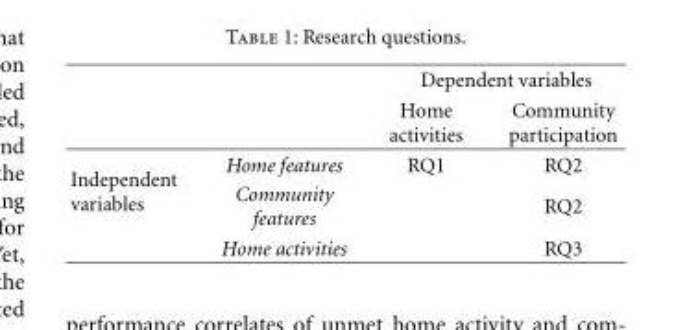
<table><thead><tr><td rowspan="2"></td><td rowspan="2"></td><td colspan="2">Dependent variables</td></tr><tr><td>Home activities</td><td>Community participation</td></tr></thead><tbody><tr><td rowspan="3">Independent variables</td><td>Home features</td><td>RQ1</td><td>RQ2</td></tr><tr><td>Community features</td><td></td><td>RQ2</td></tr><tr><td>Home activities</td><td></td><td>RQ3</td></tr></tbody></table>